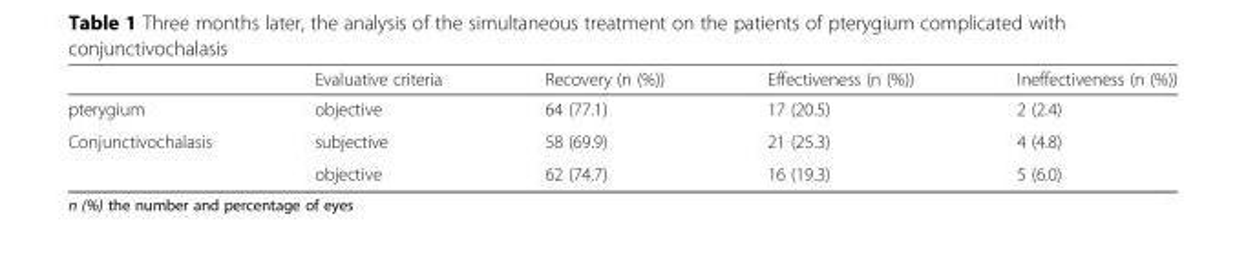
<table><thead><tr><td></td><td>Evaluative criteria</td><td>Recovery (n (%))</td><td>Effectiveness (n (%))</td><td>Ineffectiveness (n (%))</td></tr></thead><tbody><tr><td>pterygium</td><td>objective</td><td>64 (77.1)</td><td>17 (20.5)</td><td>2 (2.4)</td></tr><tr><td rowspan="2">Conjunctivochalasis</td><td>subjective</td><td>58 (69.9)</td><td>21 (25.3)</td><td>4 (4.8)</td></tr><tr><td>objective</td><td>62 (74.7)</td><td>16 (19.3)</td><td>5 (6.0)</td></tr></tbody></table>